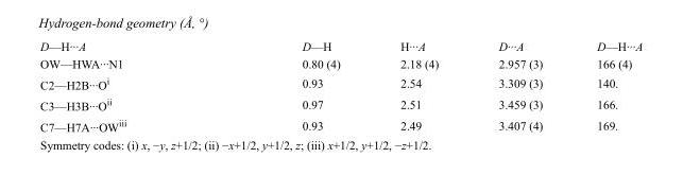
<table><tbody><tr><td>D—H···A</td><td>D—H</td><td>H···A</td><td>D···A</td><td>D—H···A</td></tr><tr><td>OW—HWA···N1</td><td>0.80 (4)</td><td>2.18 (4)</td><td>2.957 (3)</td><td>166 (4)</td></tr><tr><td>C2—H2B···O<sup>i</sup></td><td>0.93</td><td>2.54</td><td>3.309 (3)</td><td>140.</td></tr><tr><td>C3—H3B···O<sup>ii</sup></td><td>0.97</td><td>2.51</td><td>3.459 (3)</td><td>166.</td></tr><tr><td>C7—H7A···OW<sup>iii</sup></td><td>0.93</td><td>2.49</td><td>3.407 (4)</td><td>169.</td></tr></tbody></table>